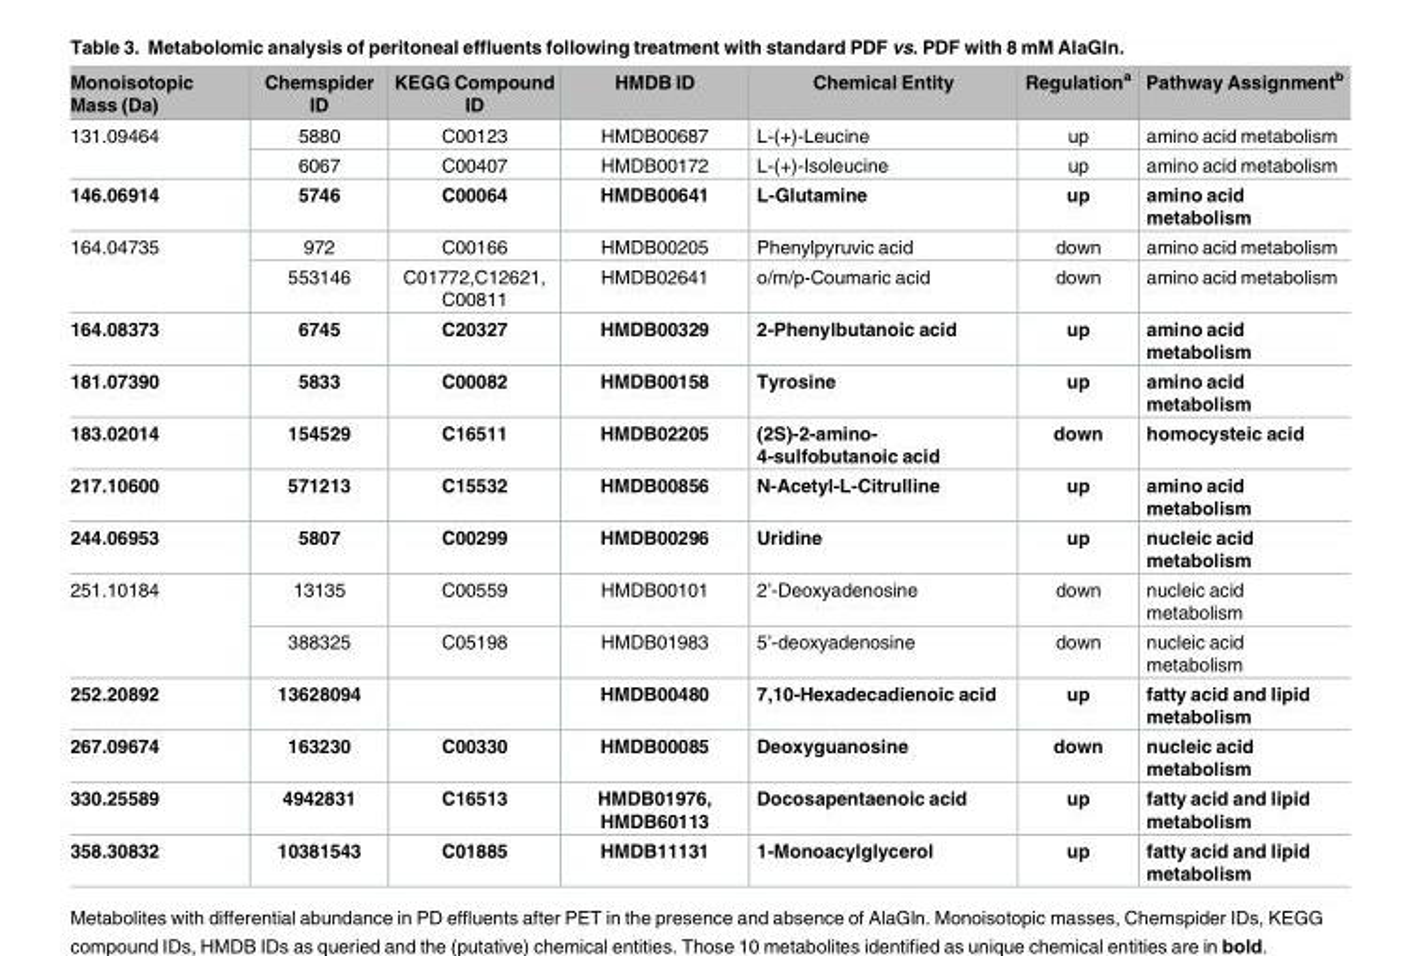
<table><thead><tr><td>Monoisotopic Mass (Da)</td><td>Chemspider ID</td><td>KEGG Compound ID</td><td>HMDB ID</td><td>Chemical Entity</td><td>Regulation<sup>a</sup></td><td>Pathway Assignment<sup>b</sup></td></tr></thead><tbody><tr><td rowspan="2">131.09464</td><td>5880</td><td>C00123</td><td>HMDB00687</td><td>L-(+)-Leucine</td><td>up</td><td>amino acid metabolism</td></tr><tr><td>6067</td><td>C00407</td><td>HMDB00172</td><td>L-(+)-Isoleucine</td><td>up</td><td>amino acid metabolism</td></tr><tr><td>146.06914</td><td>5746</td><td>C00064</td><td>HMDB00641</td><td>L-Glutamine</td><td>up</td><td>amino acid metabolism</td></tr><tr><td rowspan="2">164.04735</td><td>972</td><td>C00166</td><td>HMDB00205</td><td>Phenylpyruvic acid</td><td>down</td><td>amino acid metabolism</td></tr><tr><td>553146</td><td>C01772,C12621, C00811</td><td>HMDB02641</td><td>o/m/p-Coumaric acid</td><td>down</td><td>amino acid metabolism</td></tr><tr><td>164.08373</td><td>6745</td><td>C20327</td><td>HMDB00329</td><td>2-Phenylbutanoic acid</td><td>up</td><td>amino acid metabolism</td></tr><tr><td>181.07390</td><td>5833</td><td>C00082</td><td>HMDB00158</td><td>Tyrosine</td><td>up</td><td>amino acid metabolism</td></tr><tr><td>183.02014</td><td>154529</td><td>C16511</td><td>HMDB02205</td><td>(2S)-2-amino- 4-sulfobutanoic acid</td><td>down</td><td>homocysteic acid</td></tr><tr><td>217.10600</td><td>571213</td><td>C15532</td><td>HMDB00856</td><td>N-Acetyl-L-Citrulline</td><td>up</td><td>amino acid metabolism</td></tr><tr><td>244.06953</td><td>5807</td><td>C00299</td><td>HMDB00296</td><td>Uridine</td><td>up</td><td>nucleic acid metabolism</td></tr><tr><td rowspan="2">251.10184</td><td>13135</td><td>C00559</td><td>HMDB00101</td><td>2’-Deoxyadenosine</td><td>down</td><td>nucleic acid metabolism</td></tr><tr><td>388325</td><td>C05198</td><td>HMDB01983</td><td>5’-deoxyadenosine</td><td>down</td><td>nucleic acid metabolism</td></tr><tr><td>252.20892</td><td>13628094</td><td></td><td>HMDB00480</td><td>7,10-Hexadecadienoic acid</td><td>up</td><td>fatty acid and lipid metabolism</td></tr><tr><td>267.09674</td><td>163230</td><td>C00330</td><td>HMDB00085</td><td>Deoxyguanosine</td><td>down</td><td>nucleic acid metabolism</td></tr><tr><td>330.25589</td><td>4942831</td><td>C16513</td><td>HMDB01976, HMDB60113</td><td>Docosapentaenoic acid</td><td>up</td><td>fatty acid and lipid metabolism</td></tr><tr><td>358.30832</td><td>10381543</td><td>C01885</td><td>HMDB11131</td><td>1-Monoacylglycerol</td><td>up</td><td>fatty acid and lipid metabolism</td></tr></tbody></table>